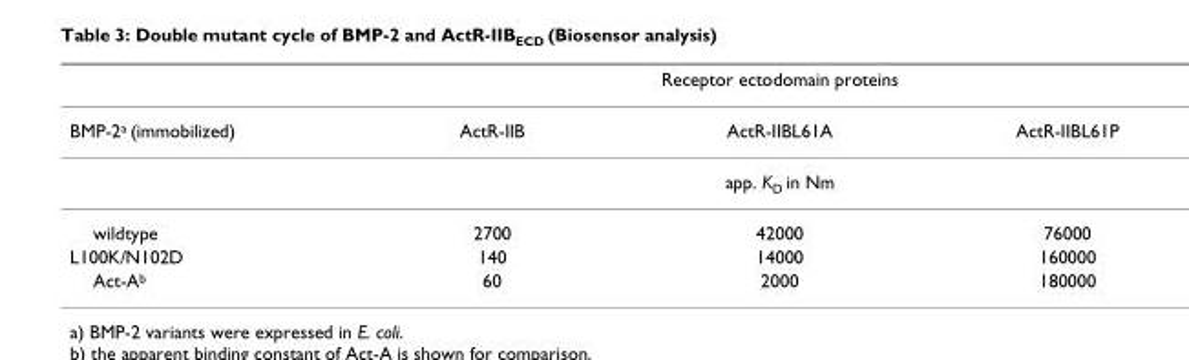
<table><thead><tr><td rowspan="2">BMP-2<sup>a</sup> (immobilized)</td><td colspan="3">Receptor ectodomain proteins</td></tr><tr><td>ActR-IIB</td><td>ActR-IIBL61A</td><td>ActR-IIBL61P</td></tr></thead><tbody><tr><td></td><td colspan="3">app. K<sub>D</sub> in Nm</td></tr><tr><td>wildtype</td><td>2700</td><td>42000</td><td>76000</td></tr><tr><td>L100K/N102D</td><td>140</td><td>14000</td><td>160000</td></tr><tr><td>Act-A<sup>b</sup></td><td>60</td><td>2000</td><td>180000</td></tr></tbody></table>